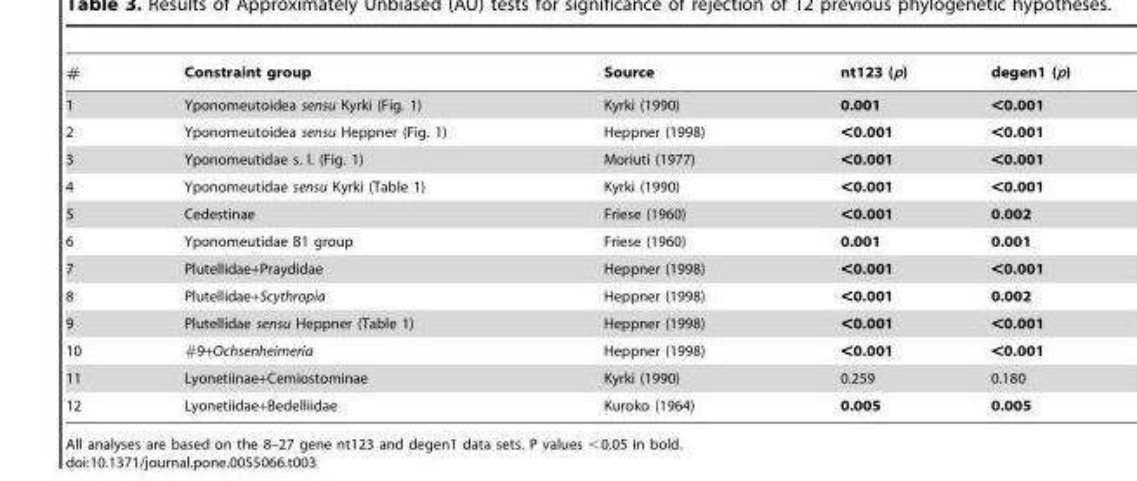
<table><thead><tr><td>#</td><td>Constraint group</td><td>Source</td><td>nt123 (p)</td><td>degen1 (p)</td></tr></thead><tbody><tr><td>1</td><td>Yponomeutoidea sensu Kyrki (Fig. 1)</td><td>Kyrki (1990)</td><td>0.001</td><td>&lt;0.001</td></tr><tr><td>2</td><td>Yponomeutoidea sensu Heppner (Fig. 1)</td><td>Heppner (1998)</td><td>&lt;0.001</td><td>&lt;0.001</td></tr><tr><td>3</td><td>Yponomeutidae s. l. (Fig. 1)</td><td>Moriuti (1977)</td><td>&lt;0.001</td><td>&lt;0.001</td></tr><tr><td>4</td><td>Yponomeutidae sensu Kyrki (Table 1)</td><td>Kyrki (1990)</td><td>&lt;0.001</td><td>&lt;0.001</td></tr><tr><td>5</td><td>Cedestinae</td><td>Friese (1960)</td><td>&lt;0.001</td><td>0.002</td></tr><tr><td>6</td><td>Yponomeutidae B1 group</td><td>Friese (1960)</td><td>0.001</td><td>0.001</td></tr><tr><td>7</td><td>Plutellidae+Praydidae</td><td>Heppner (1998)</td><td>&lt;0.001</td><td>&lt;0.001</td></tr><tr><td>8</td><td>Plutellidae+Scythropia</td><td>Heppner (1998)</td><td>&lt;0.001</td><td>0.002</td></tr><tr><td>9</td><td>Plutellidae sensu Heppner (Table 1)</td><td>Heppner (1998)</td><td>&lt;0.001</td><td>&lt;0.001</td></tr><tr><td>10</td><td>#9+Ochsenheimeria</td><td>Heppner (1998)</td><td>&lt;0.001</td><td>&lt;0.001</td></tr><tr><td>11</td><td>Lyonetiinae+Cemiostominae</td><td>Kyrki (1990)</td><td>0.259</td><td>0.180</td></tr><tr><td>12</td><td>Lyonetiidae+Bedelliidae</td><td>Kuroko (1964)</td><td>0.005</td><td>0.005</td></tr></tbody></table>